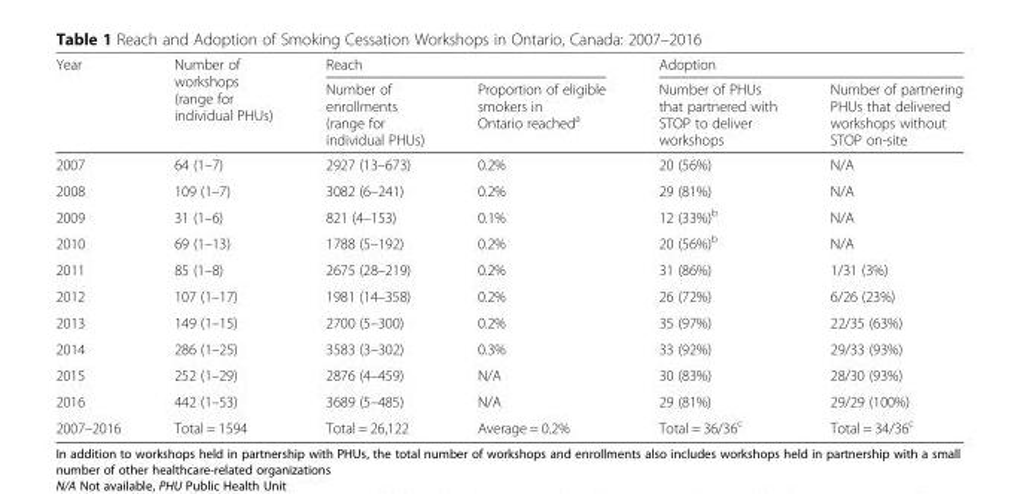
<table><thead><tr><td rowspan="2">Year</td><td rowspan="2">Number of workshops (range for individual PHUs)</td><td colspan="2">Reach</td><td colspan="2">Adoption</td></tr><tr><td>Number of enrollments (range for individual PHUs)</td><td>Proportion of eligible smokers in Ontario reached<sup>a</sup></td><td>Number of PHUs that partnered with STOP to deliver workshops</td><td>Number of partnering PHUs that delivered workshops without STOP on-site</td></tr></thead><tbody><tr><td>2007</td><td>64 (1–7)</td><td>2927 (13–673)</td><td>0.2%</td><td>20 (56%)</td><td>N/A</td></tr><tr><td>2008</td><td>109 (1–7)</td><td>3082 (6–241)</td><td>0.2%</td><td>29 (81%)</td><td>N/A</td></tr><tr><td>2009</td><td>31 (1–6)</td><td>821 (4–153)</td><td>0.1%</td><td>12 (33%)<sup>b</sup></td><td>N/A</td></tr><tr><td>2010</td><td>69 (1–13)</td><td>1788 (5–192)</td><td>0.2%</td><td>20 (56%)<sup>b</sup></td><td>N/A</td></tr><tr><td>2011</td><td>85 (1–8)</td><td>2675 (28–219)</td><td>0.2%</td><td>31 (86%)</td><td>1/31 (3%)</td></tr><tr><td>2012</td><td>107 (1–17)</td><td>1981 (14–358)</td><td>0.2%</td><td>26 (72%)</td><td>6/26 (23%)</td></tr><tr><td>2013</td><td>149 (1–15)</td><td>2700 (5–300)</td><td>0.2%</td><td>35 (97%)</td><td>22/35 (63%)</td></tr><tr><td>2014</td><td>286 (1–25)</td><td>3583 (3–302)</td><td>0.3%</td><td>33 (92%)</td><td>29/33 (93%)</td></tr><tr><td>2015</td><td>252 (1–29)</td><td>2876 (4–459)</td><td>N/A</td><td>30 (83%)</td><td>28/30 (93%)</td></tr><tr><td>2016</td><td>442 (1–53)</td><td>3689 (5–485)</td><td>N/A</td><td>29 (81%)</td><td>29/29 (100%)</td></tr><tr><td>2007–2016</td><td>Total = 1594</td><td>Total = 26,122</td><td>Average = 0.2%</td><td>Total = 36/36<sup>c</sup></td><td>Total = 34/36<sup>c</sup></td></tr></tbody></table>